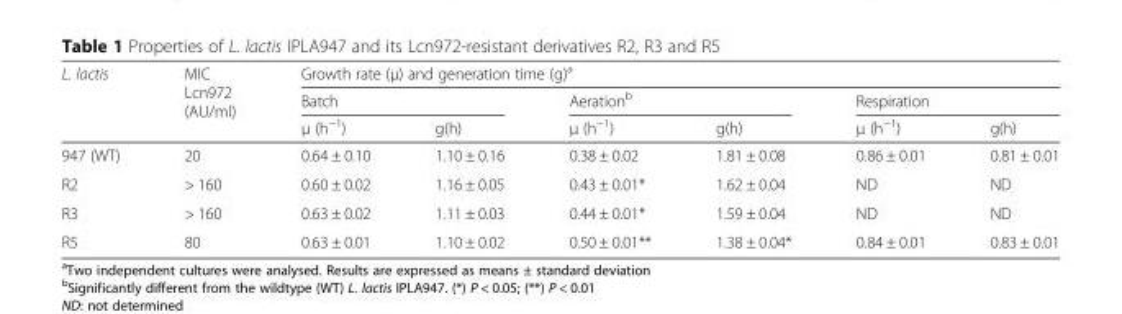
<table><thead><tr><td rowspan="3">L. lactis</td><td rowspan="3">MIC Lcn972 (AU/ml)</td><td colspan="6">Growth rate (μ) and generation time (g)<sup>a</sup></td></tr><tr><td colspan="2">Batch</td><td colspan="2">Aeration<sup>b</sup></td><td colspan="2">Respiration</td></tr><tr><td>μ (h<sup>−1</sup>)</td><td>g(h)</td><td>μ (h<sup>−1</sup>)</td><td>g(h)</td><td>μ (h<sup>−1</sup>)</td><td>g(h)</td></tr></thead><tbody><tr><td>947 (WT)</td><td>20</td><td>0.64 ± 0.10</td><td>1.10 ± 0.16</td><td>0.38 ± 0.02</td><td>1.81 ± 0.08</td><td>0.86 ± 0.01</td><td>0.81 ± 0.01</td></tr><tr><td>R2</td><td>&gt; 160</td><td>0.60 ± 0.02</td><td>1.16 ± 0.05</td><td>0.43 ± 0.01*</td><td>1.62 ± 0.04</td><td>ND</td><td>ND</td></tr><tr><td>R3</td><td>&gt; 160</td><td>0.63 ± 0.02</td><td>1.11 ± 0.03</td><td>0.44 ± 0.01*</td><td>1.59 ± 0.04</td><td>ND</td><td>ND</td></tr><tr><td>R5</td><td>80</td><td>0.63 ± 0.01</td><td>1.10 ± 0.02</td><td>0.50 ± 0.01**</td><td>1.38 ± 0.04*</td><td>0.84 ± 0.01</td><td>0.83 ± 0.01</td></tr></tbody></table>